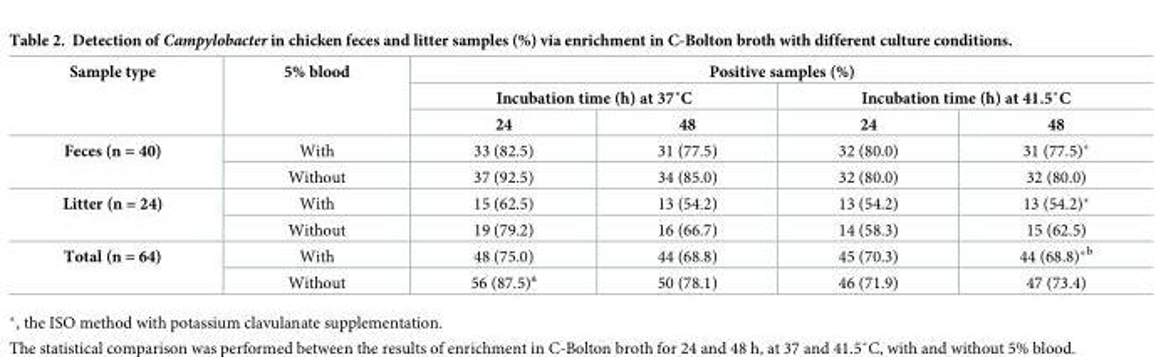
<table><thead><tr><td rowspan="3">Sample type</td><td rowspan="3">5% blood</td><td colspan="4">Positive samples (%)</td></tr><tr><td colspan="2">Incubation time (h) at 37˚C</td><td colspan="2">Incubation time (h) at 41.5˚C</td></tr><tr><td>24</td><td>48</td><td>24</td><td>48</td></tr></thead><tbody><tr><td rowspan="2">Feces (n = 40)</td><td>With</td><td>33 (82.5)</td><td>31 (77.5)</td><td>32 (80.0)</td><td>31 (77.5)*</td></tr><tr><td>Without</td><td>37 (92.5)</td><td>34 (85.0)</td><td>32 (80.0)</td><td>32 (80.0)</td></tr><tr><td rowspan="2">Litter (n = 24)</td><td>With</td><td>15 (62.5)</td><td>13 (54.2)</td><td>13 (54.2)</td><td>13 (54.2)*</td></tr><tr><td>Without</td><td>19 (79.2)</td><td>16 (66.7)</td><td>14 (58.3)</td><td>15 (62.5)</td></tr><tr><td rowspan="2">Total (n = 64)</td><td>With</td><td>48 (75.0)</td><td>44 (68.8)</td><td>45 (70.3)</td><td>44 (68.8)*<sup>b</sup></td></tr><tr><td>Without</td><td>56 (87.5)<sup>a</sup></td><td>50 (78.1)</td><td>46 (71.9)</td><td>47 (73.4)</td></tr></tbody></table>